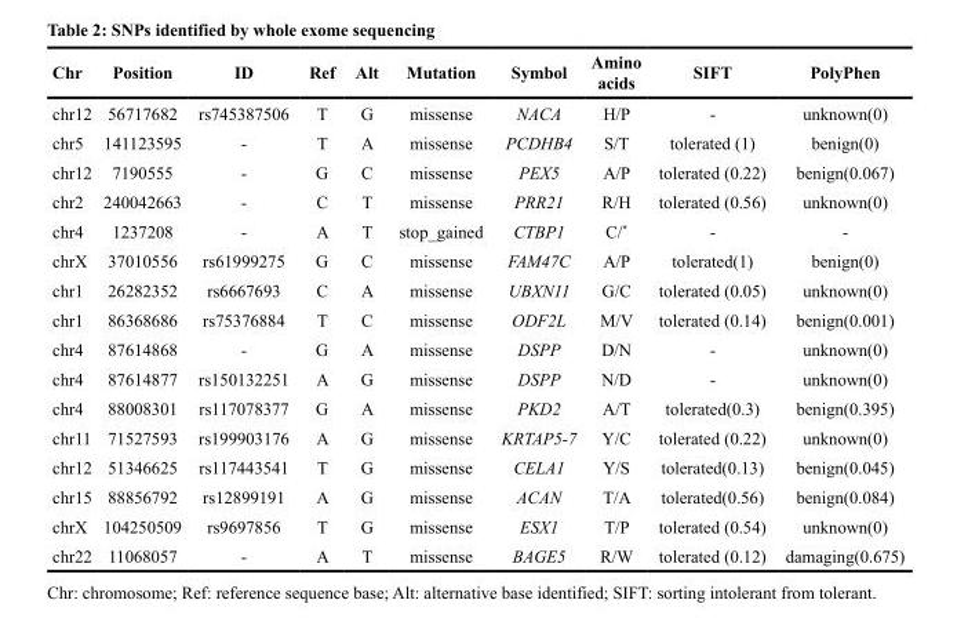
<table><thead><tr><td>Chr</td><td>Position</td><td>ID</td><td>Ref</td><td>Alt</td><td>Mutation</td><td>Symbol</td><td>Amino acids</td><td>SIFT</td><td>PolyPhen</td></tr></thead><tbody><tr><td>chr12</td><td>56717682</td><td>rs745387506</td><td>T</td><td>G</td><td>missense</td><td>NACA</td><td>H/P</td><td>-</td><td>unknown(0)</td></tr><tr><td>chr5</td><td>141123595</td><td>-</td><td>T</td><td>A</td><td>missense</td><td>PCDHB4</td><td>S/T</td><td>tolerated (1)</td><td>benign(0)</td></tr><tr><td>chr12</td><td>7190555</td><td>-</td><td>G</td><td>C</td><td>missense</td><td>PEX5</td><td>A/P</td><td>tolerated (0.22)</td><td>benign(0.067)</td></tr><tr><td>chr2</td><td>240042663</td><td>-</td><td>C</td><td>T</td><td>missense</td><td>PRR21</td><td>R/H</td><td>tolerated (0.56)</td><td>unknown(0)</td></tr><tr><td>chr4</td><td>1237208</td><td>-</td><td>A</td><td>T</td><td>stop_gained</td><td>CTBP1</td><td>C/*</td><td>-</td><td>-</td></tr><tr><td>chrX</td><td>37010556</td><td>rs61999275</td><td>G</td><td>C</td><td>missense</td><td>FAM47C</td><td>A/P</td><td>tolerated(1)</td><td>benign(0)</td></tr><tr><td>chr1</td><td>26282352</td><td>rs6667693</td><td>C</td><td>A</td><td>missense</td><td>UBXN11</td><td>G/C</td><td>tolerated (0.05)</td><td>unknown(0)</td></tr><tr><td>chr1</td><td>86368686</td><td>rs75376884</td><td>T</td><td>C</td><td>missense</td><td>ODF2L</td><td>M/V</td><td>tolerated (0.14)</td><td>benign(0.001)</td></tr><tr><td>chr4</td><td>87614868</td><td>-</td><td>G</td><td>A</td><td>missense</td><td>DSPP</td><td>D/N</td><td>-</td><td>unknown(0)</td></tr><tr><td>chr4</td><td>87614877</td><td>rs150132251</td><td>A</td><td>G</td><td>missense</td><td>DSPP</td><td>N/D</td><td>-</td><td>unknown(0)</td></tr><tr><td>chr4</td><td>88008301</td><td>rs117078377</td><td>G</td><td>A</td><td>missense</td><td>PKD2</td><td>A/T</td><td>tolerated(0.3)</td><td>benign(0.395)</td></tr><tr><td>chr11</td><td>71527593</td><td>rs199903176</td><td>A</td><td>G</td><td>missense</td><td>KRTAP5-7</td><td>Y/C</td><td>tolerated (0.22)</td><td>unknown(0)</td></tr><tr><td>chr12</td><td>51346625</td><td>rs117443541</td><td>T</td><td>G</td><td>missense</td><td>CELA1</td><td>Y/S</td><td>tolerated(0.13)</td><td>benign(0.045)</td></tr><tr><td>chr15</td><td>88856792</td><td>rs12899191</td><td>A</td><td>G</td><td>missense</td><td>ACAN</td><td>T/A</td><td>tolerated(0.56)</td><td>benign(0.084)</td></tr><tr><td>chrX</td><td>104250509</td><td>rs9697856</td><td>T</td><td>G</td><td>missense</td><td>ESX1</td><td>T/P</td><td>tolerated (0.54)</td><td>unknown(0)</td></tr><tr><td>chr22</td><td>11068057</td><td>-</td><td>A</td><td>T</td><td>missense</td><td>BAGE5</td><td>R/W</td><td>tolerated (0.12)</td><td>damaging(0.675)</td></tr></tbody></table>